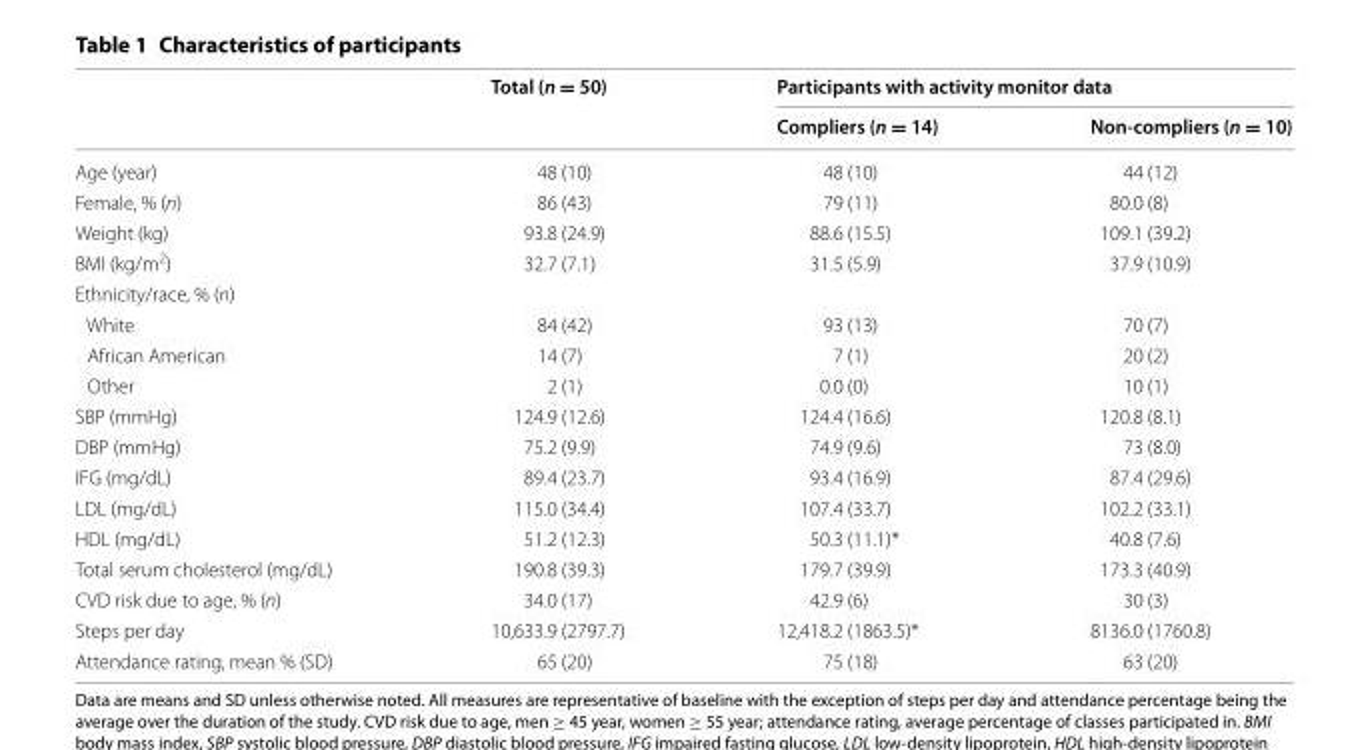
<table><thead><tr><td rowspan="2"></td><td rowspan="2">Total (n = 50)</td><td colspan="2">Participants with activity monitor data</td></tr><tr><td>Compliers (n = 14)</td><td>Non-compliers (n = 10)</td></tr></thead><tbody><tr><td>Age (year)</td><td>48 (10)</td><td>48 (10)</td><td>44 (12)</td></tr><tr><td>Female, % (n)</td><td>86 (43)</td><td>79 (11)</td><td>80.0 (8)</td></tr><tr><td>Weight (kg)</td><td>93.8 (24.9)</td><td>88.6 (15.5)</td><td>109.1 (39.2)</td></tr><tr><td>BMI (kg/m<sup>2</sup>)</td><td>32.7 (7.1)</td><td>31.5 (5.9)</td><td>37.9 (10.9)</td></tr><tr><td colspan="4">Ethnicity/race, % (n)</td></tr><tr><td>White</td><td>84 (42)</td><td>93 (13)</td><td>70 (7)</td></tr><tr><td>African American</td><td>14 (7)</td><td>7 (1)</td><td>20 (2)</td></tr><tr><td>Other</td><td>2 (1)</td><td>0.0 (0)</td><td>10 (1)</td></tr><tr><td>SBP (mmHg)</td><td>124.9 (12.6)</td><td>124.4 (16.6)</td><td>120.8 (8.1)</td></tr><tr><td>DBP (mmHg)</td><td>75.2 (9.9)</td><td>74.9 (9.6)</td><td>73 (8.0)</td></tr><tr><td>IFG (mg/dL)</td><td>89.4 (23.7)</td><td>93.4 (16.9)</td><td>87.4 (29.6)</td></tr><tr><td>LDL (mg/dL)</td><td>115.0 (34.4)</td><td>107.4 (33.7)</td><td>102.2 (33.1)</td></tr><tr><td>HDL (mg/dL)</td><td>51.2 (12.3)</td><td>50.3 (11.1)*</td><td>40.8 (7.6)</td></tr><tr><td>Total serum cholesterol (mg/dL)</td><td>190.8 (39.3)</td><td>179.7 (39.9)</td><td>173.3 (40.9)</td></tr><tr><td>CVD risk due to age, % (n)</td><td>34.0 (17)</td><td>42.9 (6)</td><td>30 (3)</td></tr><tr><td>Steps per day</td><td>10,633.9 (2797.7)</td><td>12,418.2 (1863.5)*</td><td>8136.0 (1760.8)</td></tr><tr><td>Attendance rating, mean % (SD)</td><td>65 (20)</td><td>75 (18)</td><td>63 (20)</td></tr></tbody></table>